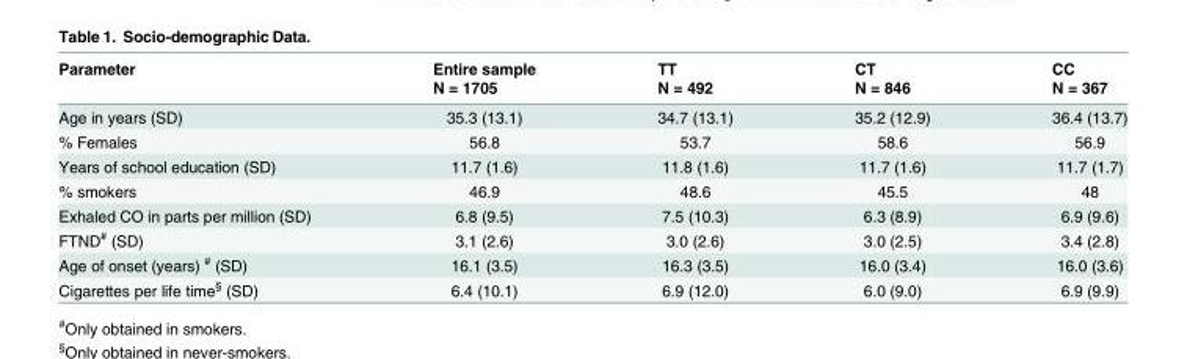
<table><thead><tr><td rowspan="2">Parameter</td><td rowspan="2">Entire sample N = 1705</td><td rowspan="2">TT N = 492</td><td rowspan="2">CT N = 846</td><td rowspan="2">CC N = 367</td></tr><tr></tr></thead><tbody><tr><td>Age in years (SD)</td><td>35.3 (13.1)</td><td>34.7 (13.1)</td><td>35.2 (12.9)</td><td>36.4 (13.7)</td></tr><tr><td>% Females</td><td>56.8</td><td>53.7</td><td>58.6</td><td>56.9</td></tr><tr><td>Years of school education (SD)</td><td>11.7 (1.6)</td><td>11.8 (1.6)</td><td>11.7 (1.6)</td><td>11.7 (1.7)</td></tr><tr><td>% smokers</td><td>46.9</td><td>48.6</td><td>45.5</td><td>48</td></tr><tr><td>Exhaled CO in parts per million (SD)</td><td>6.8 (9.5)</td><td>7.5 (10.3)</td><td>6.3 (8.9)</td><td>6.9 (9.6)</td></tr><tr><td>FTND<sup>#</sup> (SD)</td><td>3.1 (2.6)</td><td>3.0 (2.6)</td><td>3.0 (2.5)</td><td>3.4 (2.8)</td></tr><tr><td>Age of onset (years) <sup>#</sup> (SD)</td><td>16.1 (3.5)</td><td>16.3 (3.5)</td><td>16.0 (3.4)</td><td>16.0 (3.6)</td></tr><tr><td>Cigarettes per life time<sup>§</sup> (SD)</td><td>6.4 (10.1)</td><td>6.9 (12.0)</td><td>6.0 (9.0)</td><td>6.9 (9.9)</td></tr></tbody></table>